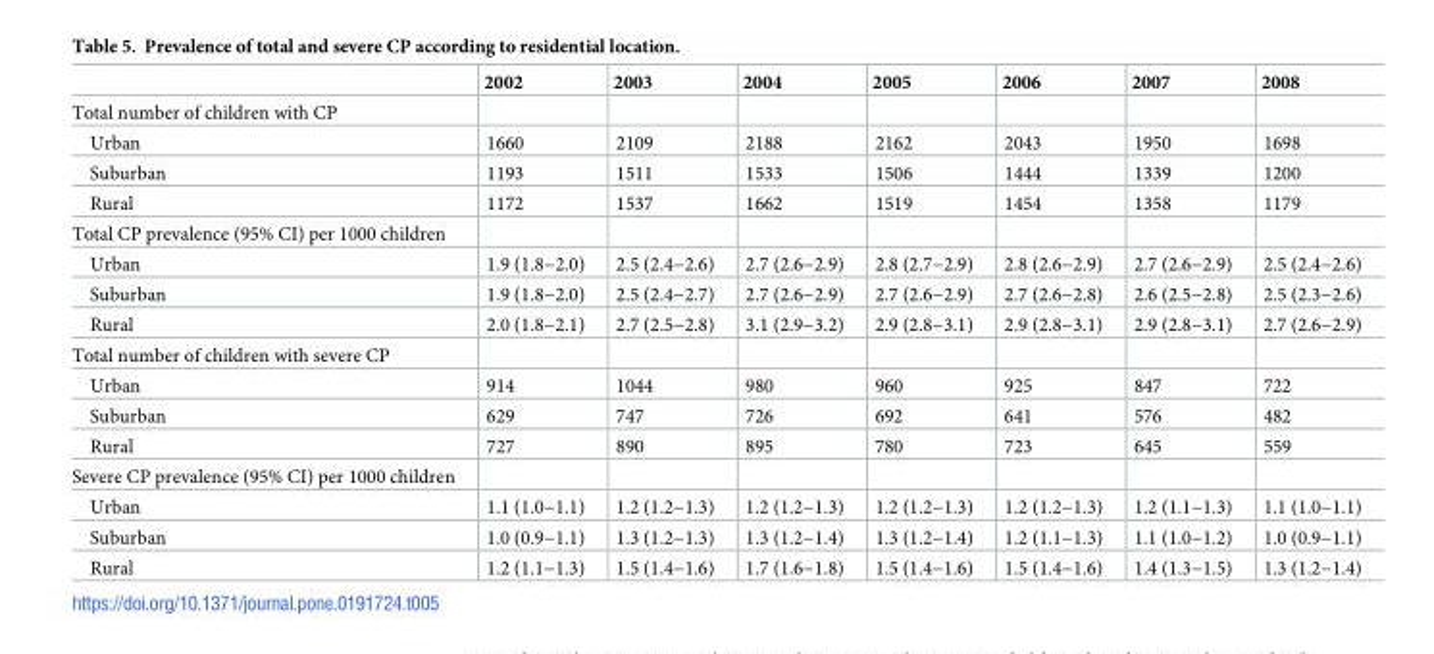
<table><thead><tr><td></td><td>2002</td><td>2003</td><td>2004</td><td>2005</td><td>2006</td><td>2007</td><td>2008</td></tr></thead><tbody><tr><td colspan="8">Total number of children with CP</td></tr><tr><td>Urban</td><td>1660</td><td>2109</td><td>2188</td><td>2162</td><td>2043</td><td>1950</td><td>1698</td></tr><tr><td>Suburban</td><td>1193</td><td>1511</td><td>1533</td><td>1506</td><td>1444</td><td>1339</td><td>1200</td></tr><tr><td>Rural</td><td>1172</td><td>1537</td><td>1662</td><td>1519</td><td>1454</td><td>1358</td><td>1179</td></tr><tr><td colspan="8">Total CP prevalence (95% CI) per 1000 children</td></tr><tr><td>Urban</td><td>1.9 (1.8−2.0)</td><td>2.5 (2.4−2.6)</td><td>2.7 (2.6−2.9)</td><td>2.8 (2.7−2.9)</td><td>2.8 (2.6−2.9)</td><td>2.7 (2.6−2.9)</td><td>2.5 (2.4−2.6)</td></tr><tr><td>Suburban</td><td>1.9 (1.8−2.0)</td><td>2.5 (2.4−2.7)</td><td>2.7 (2.6−2.9)</td><td>2.7 (2.6−2.9)</td><td>2.7 (2.6−2.8)</td><td>2.6 (2.5−2.8)</td><td>2.5 (2.3−2.6)</td></tr><tr><td>Rural</td><td>2.0 (1.8−2.1)</td><td>2.7 (2.5−2.8)</td><td>3.1 (2.9−3.2)</td><td>2.9 (2.8−3.1)</td><td>2.9 (2.8−3.1)</td><td>2.9 (2.8−3.1)</td><td>2.7 (2.6−2.9)</td></tr><tr><td colspan="8">Total number of children with severe CP</td></tr><tr><td>Urban</td><td>914</td><td>1044</td><td>980</td><td>960</td><td>925</td><td>847</td><td>722</td></tr><tr><td>Suburban</td><td>629</td><td>747</td><td>726</td><td>692</td><td>641</td><td>576</td><td>482</td></tr><tr><td>Rural</td><td>727</td><td>890</td><td>895</td><td>780</td><td>723</td><td>645</td><td>559</td></tr><tr><td colspan="8">Severe CP prevalence (95% CI) per 1000 children</td></tr><tr><td>Urban</td><td>1.1 (1.0−1.1)</td><td>1.2 (1.2−1.3)</td><td>1.2 (1.2−1.3)</td><td>1.2 (1.2−1.3)</td><td>1.2 (1.2−1.3)</td><td>1.2 (1.1−1.3)</td><td>1.1 (1.0−1.1)</td></tr><tr><td>Suburban</td><td>1.0 (0.9−1.1)</td><td>1.3 (1.2−1.3)</td><td>1.3 (1.2−1.4)</td><td>1.3 (1.2−1.4)</td><td>1.2 (1.1−1.3)</td><td>1.1 (1.0−1.2)</td><td>1.0 (0.9−1.1)</td></tr><tr><td>Rural</td><td>1.2 (1.1−1.3)</td><td>1.5 (1.4−1.6)</td><td>1.7 (1.6−1.8)</td><td>1.5 (1.4−1.6)</td><td>1.5 (1.4−1.6)</td><td>1.4 (1.3−1.5)</td><td>1.3 (1.2−1.4)</td></tr></tbody></table>